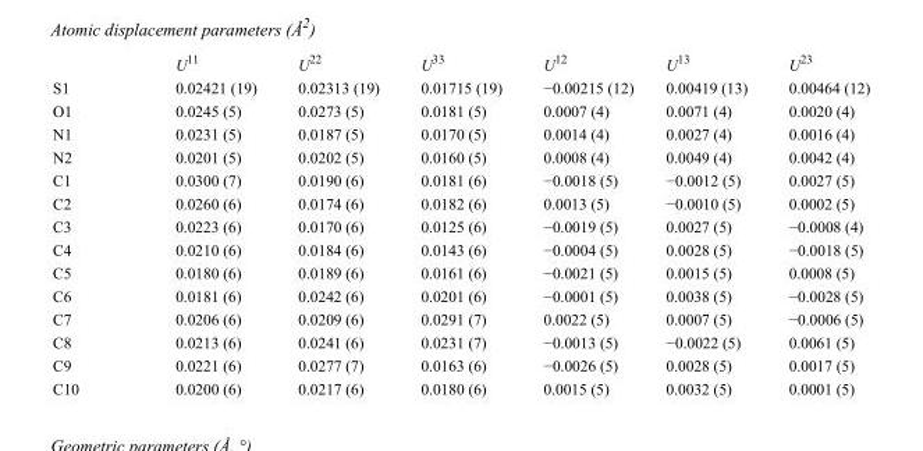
<table><thead><tr><td></td><td>U<sup>11</sup></td><td>U<sup>22</sup></td><td>U<sup>33</sup></td><td>U<sup>12</sup></td><td>U<sup>13</sup></td><td>U<sup>23</sup></td></tr></thead><tbody><tr><td>S1</td><td>0.02421 (19)</td><td>0.02313 (19)</td><td>0.01715 (19)</td><td>−0.00215 (12)</td><td>0.00419 (13)</td><td>0.00464 (12)</td></tr><tr><td>O1</td><td>0.0245 (5)</td><td>0.0273 (5)</td><td>0.0181 (5)</td><td>0.0007 (4)</td><td>0.0071 (4)</td><td>0.0020 (4)</td></tr><tr><td>N1</td><td>0.0231 (5)</td><td>0.0187 (5)</td><td>0.0170 (5)</td><td>0.0014 (4)</td><td>0.0027 (4)</td><td>0.0016 (4)</td></tr><tr><td>N2</td><td>0.0201 (5)</td><td>0.0202 (5)</td><td>0.0160 (5)</td><td>0.0008 (4)</td><td>0.0049 (4)</td><td>0.0042 (4)</td></tr><tr><td>C1</td><td>0.0300 (7)</td><td>0.0190 (6)</td><td>0.0181 (6)</td><td>−0.0018 (5)</td><td>−0.0012 (5)</td><td>0.0027 (5)</td></tr><tr><td>C2</td><td>0.0260 (6)</td><td>0.0174 (6)</td><td>0.0182 (6)</td><td>0.0013 (5)</td><td>−0.0010 (5)</td><td>0.0002 (5)</td></tr><tr><td>C3</td><td>0.0223 (6)</td><td>0.0170 (6)</td><td>0.0125 (6)</td><td>−0.0019 (5)</td><td>0.0027 (5)</td><td>−0.0008 (4)</td></tr><tr><td>C4</td><td>0.0210 (6)</td><td>0.0184 (6)</td><td>0.0143 (6)</td><td>−0.0004 (5)</td><td>0.0028 (5)</td><td>−0.0018 (5)</td></tr><tr><td>C5</td><td>0.0180 (6)</td><td>0.0189 (6)</td><td>0.0161 (6)</td><td>−0.0021 (5)</td><td>0.0015 (5)</td><td>0.0008 (5)</td></tr><tr><td>C6</td><td>0.0181 (6)</td><td>0.0242 (6)</td><td>0.0201 (6)</td><td>−0.0001 (5)</td><td>0.0038 (5)</td><td>−0.0028 (5)</td></tr><tr><td>C7</td><td>0.0206 (6)</td><td>0.0209 (6)</td><td>0.0291 (7)</td><td>0.0022 (5)</td><td>0.0007 (5)</td><td>−0.0006 (5)</td></tr><tr><td>C8</td><td>0.0213 (6)</td><td>0.0241 (6)</td><td>0.0231 (7)</td><td>−0.0013 (5)</td><td>−0.0022 (5)</td><td>0.0061 (5)</td></tr><tr><td>C9</td><td>0.0221 (6)</td><td>0.0277 (7)</td><td>0.0163 (6)</td><td>−0.0026 (5)</td><td>0.0028 (5)</td><td>0.0017 (5)</td></tr><tr><td>C10</td><td>0.0200 (6)</td><td>0.0217 (6)</td><td>0.0180 (6)</td><td>0.0015 (5)</td><td>0.0032 (5)</td><td>0.0001 (5)</td></tr></tbody></table>